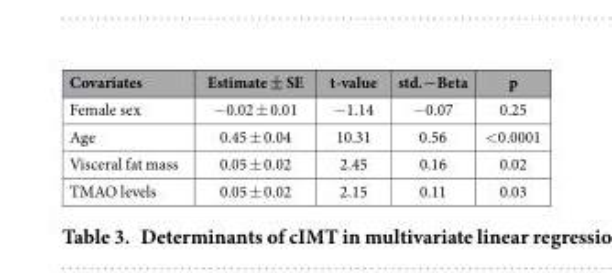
<table><thead><tr><td>Covariates</td><td>Estimate ± SE</td><td>t-value</td><td>std.−Beta</td><td>p</td></tr></thead><tbody><tr><td>Female sex</td><td>− 0.02 ± 0.01</td><td>− 1.14</td><td>− 0.07</td><td>0.25</td></tr><tr><td>Age</td><td>0.45 ± 0.04</td><td>10.31</td><td>0.56</td><td>&lt; 0.0001</td></tr><tr><td>Visceral fat mass</td><td>0.05 ± 0.02</td><td>2.45</td><td>0.16</td><td>0.02</td></tr><tr><td>TMAO levels</td><td>0.05 ± 0.02</td><td>2.15</td><td>0.11</td><td>0.03</td></tr></tbody></table>